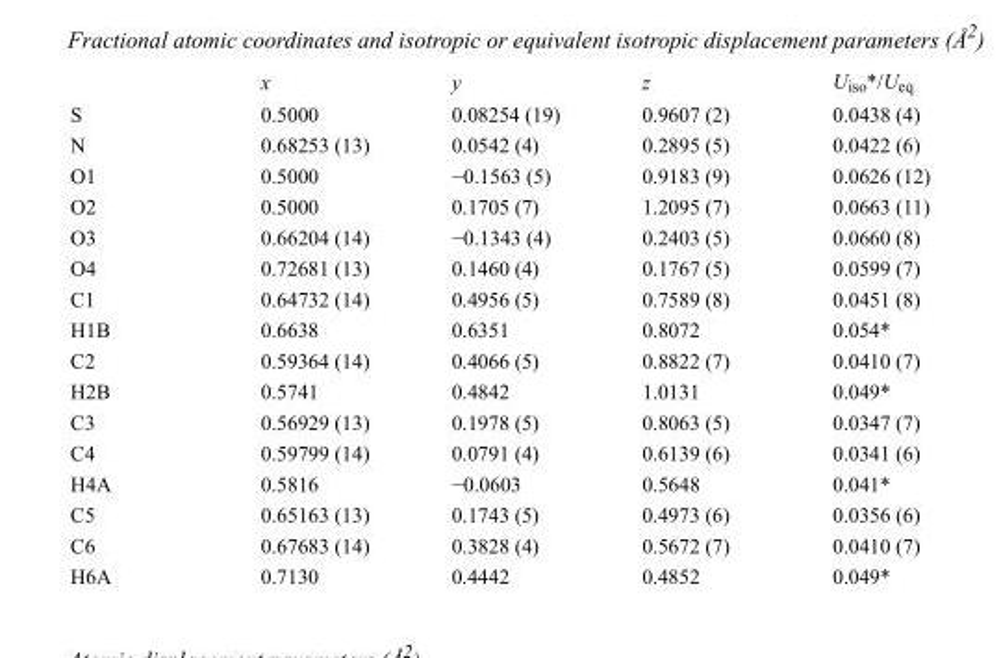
<table><thead><tr><td></td><td>x</td><td>y</td><td>z</td><td>U<sub>iso</sub>*/U<sub>eq</sub></td></tr></thead><tbody><tr><td>S</td><td>0.5000</td><td>0.08254 (19)</td><td>0.9607 (2)</td><td>0.0438 (4)</td></tr><tr><td>N</td><td>0.68253 (13)</td><td>0.0542 (4)</td><td>0.2895 (5)</td><td>0.0422 (6)</td></tr><tr><td>O1</td><td>0.5000</td><td>−0.1563 (5)</td><td>0.9183 (9)</td><td>0.0626 (12)</td></tr><tr><td>O2</td><td>0.5000</td><td>0.1705 (7)</td><td>1.2095 (7)</td><td>0.0663 (11)</td></tr><tr><td>O3</td><td>0.66204 (14)</td><td>−0.1343 (4)</td><td>0.2403 (5)</td><td>0.0660 (8)</td></tr><tr><td>O4</td><td>0.72681 (13)</td><td>0.1460 (4)</td><td>0.1767 (5)</td><td>0.0599 (7)</td></tr><tr><td>C1</td><td>0.64732 (14)</td><td>0.4956 (5)</td><td>0.7589 (8)</td><td>0.0451 (8)</td></tr><tr><td>H1B</td><td>0.6638</td><td>0.6351</td><td>0.8072</td><td>0.054*</td></tr><tr><td>C2</td><td>0.59364 (14)</td><td>0.4066 (5)</td><td>0.8822 (7)</td><td>0.0410 (7)</td></tr><tr><td>H2B</td><td>0.5741</td><td>0.4842</td><td>1.0131</td><td>0.049*</td></tr><tr><td>C3</td><td>0.56929 (13)</td><td>0.1978 (5)</td><td>0.8063 (5)</td><td>0.0347 (7)</td></tr><tr><td>C4</td><td>0.59799 (14)</td><td>0.0791 (4)</td><td>0.6139 (6)</td><td>0.0341 (6)</td></tr><tr><td>H4A</td><td>0.5816</td><td>−0.0603</td><td>0.5648</td><td>0.041*</td></tr><tr><td>C5</td><td>0.65163 (13)</td><td>0.1743 (5)</td><td>0.4973 (6)</td><td>0.0356 (6)</td></tr><tr><td>C6</td><td>0.67683 (14)</td><td>0.3828 (4)</td><td>0.5672 (7)</td><td>0.0410 (7)</td></tr><tr><td>H6A</td><td>0.7130</td><td>0.4442</td><td>0.4852</td><td>0.049*</td></tr></tbody></table>